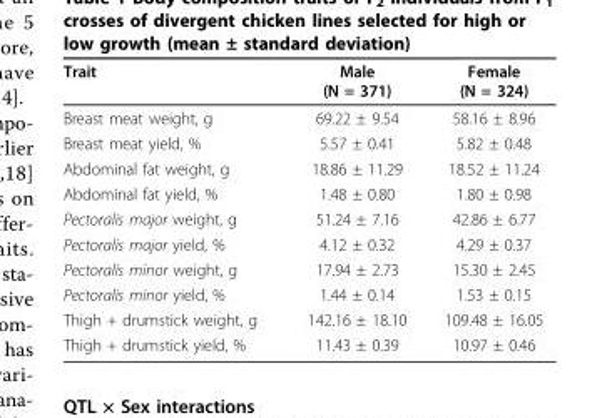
<table><thead><tr><td>Trait</td><td>Male (N = 371)</td><td>Female (N = 324)</td></tr></thead><tbody><tr><td>Breast meat weight, g</td><td>69.22 ± 9.54</td><td>58.16 ± 8.96</td></tr><tr><td>Breast meat yield, %</td><td>5.57 ± 0.41</td><td>5.82 ± 0.48</td></tr><tr><td>Abdominal fat weight, g</td><td>18.86 ± 11.29</td><td>18.52 ± 11.24</td></tr><tr><td>Abdominal fat yield, %</td><td>1.48 ± 0.80</td><td>1.80 ± 0.98</td></tr><tr><td>Pectoralis major weight, g</td><td>51.24 ± 7.16</td><td>42.86 ± 6.77</td></tr><tr><td>Pectoralis major yield, %</td><td>4.12 ± 0.32</td><td>4.29 ± 0.37</td></tr><tr><td>Pectoralis minor weight, g</td><td>17.94 ± 2.73</td><td>15.30 ± 2.45</td></tr><tr><td>Pectoralis minor yield, %</td><td>1.44 ± 0.14</td><td>1.53 ± 0.15</td></tr><tr><td>Thigh + drumstick weight, g</td><td>142.16 ± 18.10</td><td>109.48 ± 16.05</td></tr><tr><td>Thigh + drumstick yield, %</td><td>11.43 ± 0.39</td><td>10.97 ± 0.46</td></tr></tbody></table>